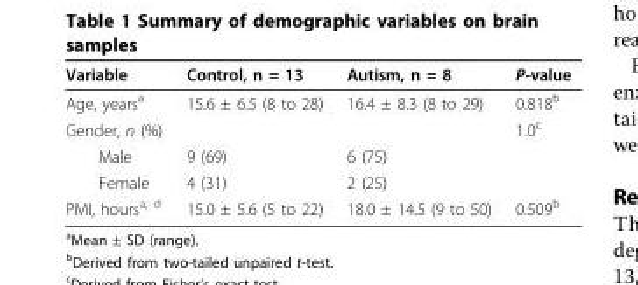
<table><thead><tr><td>Variable</td><td>Control, n = 13</td><td>Autism, n = 8</td><td>P-value</td></tr></thead><tbody><tr><td>Age, years<sup>a</sup></td><td>15.6 ± 6.5 (8 to 28)</td><td>16.4 ± 8.3 (8 to 29)</td><td>0.818<sup>b</sup></td></tr><tr><td>Gender, n (%)</td><td></td><td></td><td>1.0<sup>c</sup></td></tr><tr><td>Male</td><td>9 (69)</td><td>6 (75)</td><td></td></tr><tr><td>Female</td><td>4 (31)</td><td>2 (25)</td><td></td></tr><tr><td>PMI, hours<sup>a, d</sup></td><td>15.0 ± 5.6 (5 to 22)</td><td>18.0 ± 14.5 (9 to 50)</td><td>0.509<sup>b</sup></td></tr></tbody></table>